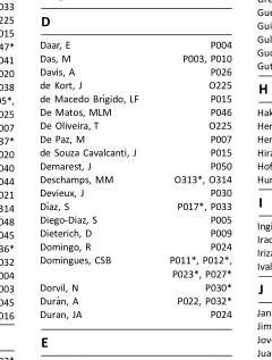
<table><tbody><tr><td>Daar, E</td><td>P004</td></tr><tr><td>Das, M</td><td>P003, P010</td></tr><tr><td>Davis, A</td><td>P026</td></tr><tr><td>de Kort, J</td><td>O225</td></tr><tr><td>de Macedo Brı´gido, LF</td><td>P015</td></tr><tr><td>De Matos, MLM</td><td>P046</td></tr><tr><td>De Oliveira, T</td><td>O225</td></tr><tr><td>De Paz, M</td><td>P007</td></tr><tr><td>de Souza Cavalcanti, J</td><td>P015</td></tr><tr><td>Demarest, J</td><td>P050</td></tr><tr><td>Deschamps, MM</td><td>O313*, O314</td></tr><tr><td>Devieux, J</td><td>P030</td></tr><tr><td>Dı´az, S</td><td>P017*, P033</td></tr><tr><td>Diego-Diaz, S</td><td>P005</td></tr><tr><td>Dieterich, D</td><td>P009</td></tr><tr><td>Domingo, R</td><td>P024</td></tr><tr><td>Domingues, CSB</td><td>P011*, P012*, P023*, P027*</td></tr><tr><td>Dorvil, N</td><td>P030*</td></tr><tr><td>Dura´n, A</td><td>P022, P032*</td></tr><tr><td>Duran, JA</td><td>P024</td></tr></tbody></table>